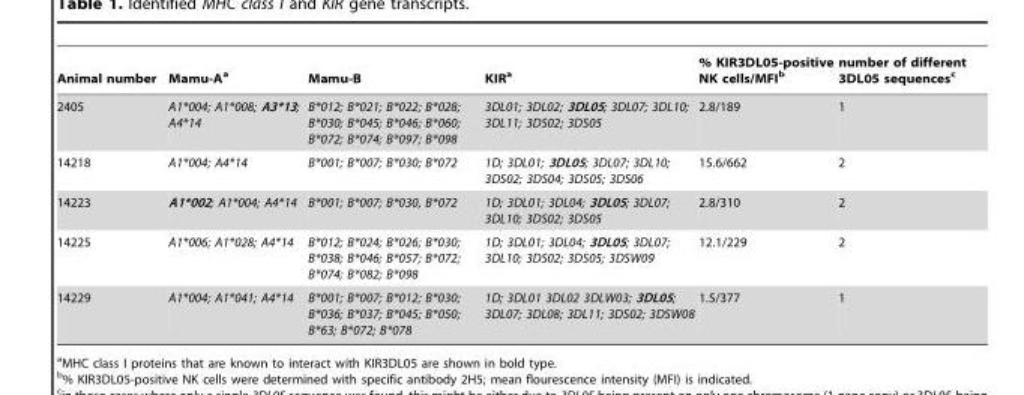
<table><thead><tr><td>Animal number</td><td>Mamu-A<sup>a</sup></td><td>Mamu-B</td><td>KIR<sup>a</sup></td><td>% KIR3DL05-positive NK cells/MFI<sup>b</sup></td><td>number of different 3DL05 sequences<sup>c</sup></td></tr></thead><tbody><tr><td>2405</td><td>A1*004; A1*008; A3*13; A4*14</td><td>B*012; B*021; B*022; B*028; B*030; B*045; B*046; B*060; B*072; B*074; B*097; B*098</td><td>3DL01; 3DL02; 3DL05; 3DL07; 3DL10; 3DL11; 3DS02; 3DS05</td><td>2.8/189</td><td>1</td></tr><tr><td>14218</td><td>A1*004; A4*14</td><td>B*001; B*007; B*030; B*072</td><td>1D; 3DL01; 3DL05; 3DL07; 3DL10; 3DS02; 3DS04; 3DS05; 3DS06</td><td>15.6/662</td><td>2</td></tr><tr><td>14223</td><td>A1*002; A1*004; A4*14</td><td>B*001; B*007; B*030, B*072</td><td>1D; 3DL01; 3DL04; 3DL05; 3DL07; 3DL10; 3DS02; 3DS05</td><td>2.8/310</td><td>2</td></tr><tr><td>14225</td><td>A1*006; A1*028; A4*14</td><td>B*012; B*024; B*026; B*030; B*038; B*046; B*057; B*072; B*074; B*082; B*098</td><td>1D; 3DL01; 3DL04; 3DL05; 3DL07; 3DL10; 3DS02; 3DS05; 3DSW09</td><td>12.1/229</td><td>2</td></tr><tr><td>14229</td><td>A1*004; A1*041; A4*14</td><td>B*001; B*007; B*012; B*030; B*036; B*037; B*045; B*050; B*63; B*072; B*078</td><td>1D; 3DL01 3DL02 3DLW03; 3DL05; 3DL07; 3DL08; 3DL11; 3DS02; 3DSW08</td><td>1.5/377</td><td>1</td></tr></tbody></table>